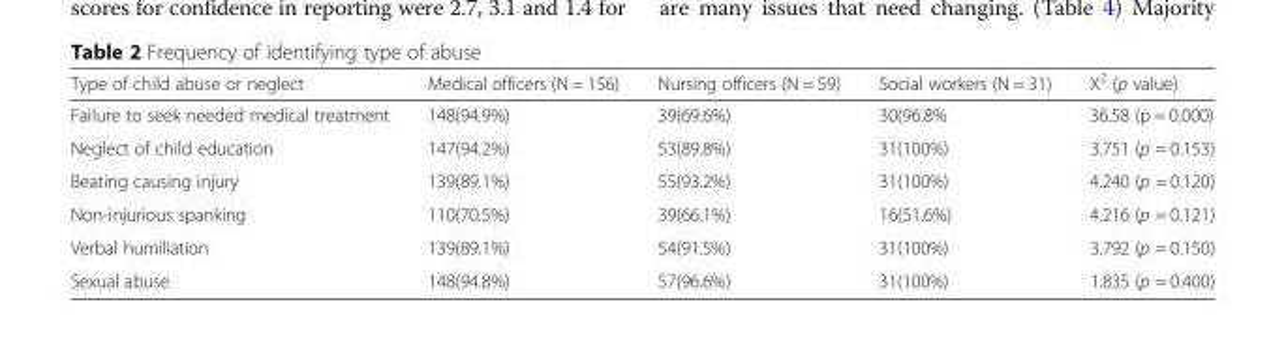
<table><thead><tr><td>Type of child abuse or neglect</td><td>Medical officers (N = 156)</td><td>Nursing officers (N = 59)</td><td>Social workers (N = 31)</td><td>X<sup>2</sup> (p value)</td></tr></thead><tbody><tr><td>Failure to seek needed medical treatment</td><td>148(94.9%)</td><td>39(69.6%)</td><td>30(96.8%</td><td>36.58 (p = 0.000)</td></tr><tr><td>Neglect of child education</td><td>147(94.2%)</td><td>53(89.8%)</td><td>31(100%)</td><td>3.751 (p = 0.153)</td></tr><tr><td>Beating causing injury</td><td>139(89.1%)</td><td>55(93.2%)</td><td>31(100%)</td><td>4.240 (p = 0.120)</td></tr><tr><td>Non-injurious spanking</td><td>110(70.5%)</td><td>39(66.1%)</td><td>16(51.6%)</td><td>4.216 (p = 0.121)</td></tr><tr><td>Verbal humiliation</td><td>139(89.1%)</td><td>54(91.5%)</td><td>31(100%)</td><td>3.792 (p = 0.150)</td></tr><tr><td>Sexual abuse</td><td>148(94.8%)</td><td>57(96.6%)</td><td>31(100%)</td><td>1.835 (p = 0.400)</td></tr></tbody></table>